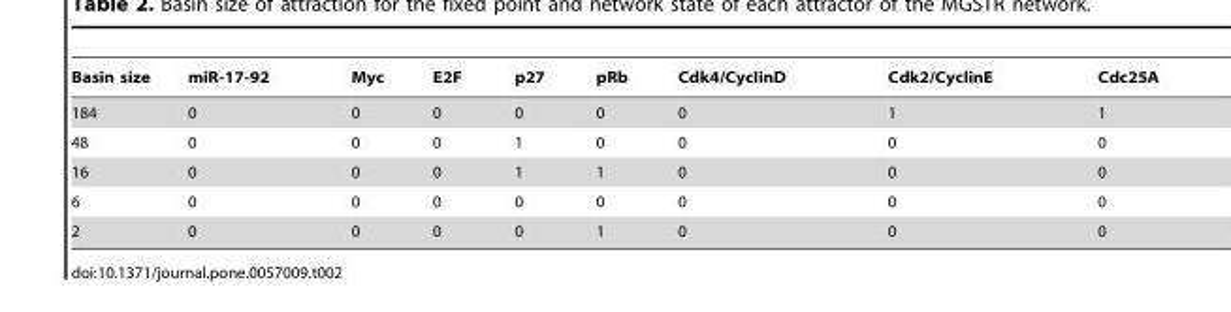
<table><thead><tr><td>Basin size</td><td>miR-17-92</td><td>Myc</td><td>E2F</td><td>p27</td><td>pRb</td><td>Cdk4/CyclinD</td><td>Cdk2/CyclinE</td><td>Cdc25A</td></tr></thead><tbody><tr><td>184</td><td>0</td><td>0</td><td>0</td><td>0</td><td>0</td><td>0</td><td>1</td><td>1</td></tr><tr><td>48</td><td>0</td><td>0</td><td>0</td><td>1</td><td>0</td><td>0</td><td>0</td><td>0</td></tr><tr><td>16</td><td>0</td><td>0</td><td>0</td><td>1</td><td>1</td><td>0</td><td>0</td><td>0</td></tr><tr><td>6</td><td>0</td><td>0</td><td>0</td><td>0</td><td>0</td><td>0</td><td>0</td><td>0</td></tr><tr><td>2</td><td>0</td><td>0</td><td>0</td><td>0</td><td>1</td><td>0</td><td>0</td><td>0</td></tr></tbody></table>